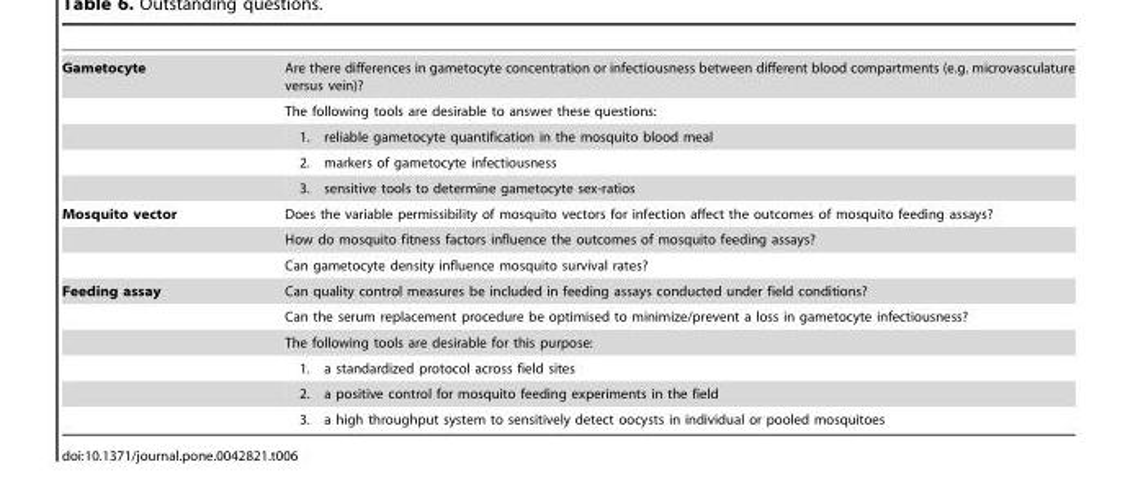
<table><tbody><tr><td rowspan="5">Gametocyte</td><td>Are there differences in gametocyte concentration or infectiousness between different blood compartments (e.g. microvasculature versus vein)?</td></tr><tr><td>The following tools are desirable to answer these questions:</td></tr><tr><td>1. reliable gametocyte quantification in the mosquito blood meal</td></tr><tr><td>2. markers of gametocyte infectiousness</td></tr><tr><td>3. sensitive tools to determine gametocyte sex-ratios</td></tr><tr><td rowspan="3">Mosquito vector</td><td>Does the variable permissibility of mosquito vectors for infection affect the outcomes of mosquito feeding assays?</td></tr><tr><td>How do mosquito fitness factors influence the outcomes of mosquito feeding assays?</td></tr><tr><td>Can gametocyte density influence mosquito survival rates?</td></tr><tr><td rowspan="6">Feeding assay</td><td>Can quality control measures be included in feeding assays conducted under field conditions?</td></tr><tr><td>Can the serum replacement procedure be optimised to minimize/prevent a loss in gametocyte infectiousness?</td></tr><tr><td>The following tools are desirable for this purpose:</td></tr><tr><td>1. a standardized protocol across field sites</td></tr><tr><td>2. a positive control for mosquito feeding experiments in the field</td></tr><tr><td>3. a high throughput system to sensitively detect oocysts in individual or pooled mosquitoes</td></tr></tbody></table>